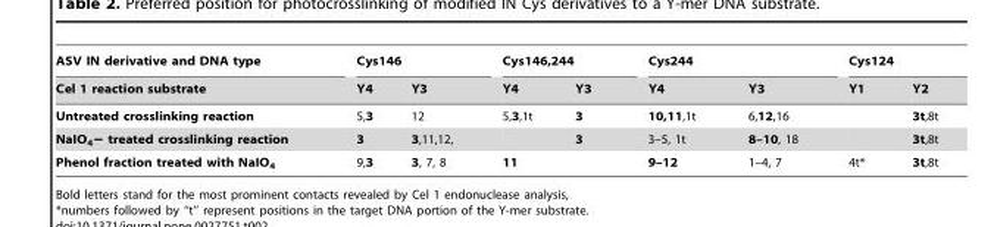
<table><thead><tr><td rowspan="2">ASV IN derivative and DNA type Cel 1 reaction substrate</td><td colspan="2">Cys146</td><td colspan="2">Cys146,244</td><td colspan="2">Cys244</td><td colspan="2">Cys124</td></tr><tr><td>Y4</td><td>Y3</td><td>Y4</td><td>Y3</td><td>Y4</td><td>Y3</td><td>Y1</td><td>Y2</td></tr></thead><tbody><tr><td>Untreated crosslinking reaction</td><td>5,3</td><td>12</td><td>5,3,1t</td><td>3</td><td>10,11,1t</td><td>6,12,16</td><td></td><td>3t,8t</td></tr><tr><td>NaIO<sub>4</sub>− treated crosslinking reaction</td><td>3</td><td>3,11,12,</td><td></td><td>3</td><td>3–5, 1t</td><td>8–10, 18</td><td></td><td>3t,8t</td></tr><tr><td>Phenol fraction treated with NaIO<sub>4</sub></td><td>9,3</td><td>3, 7, 8</td><td>11</td><td></td><td>9–12</td><td>1–4, 7</td><td>4t*</td><td>3t,8t</td></tr></tbody></table>